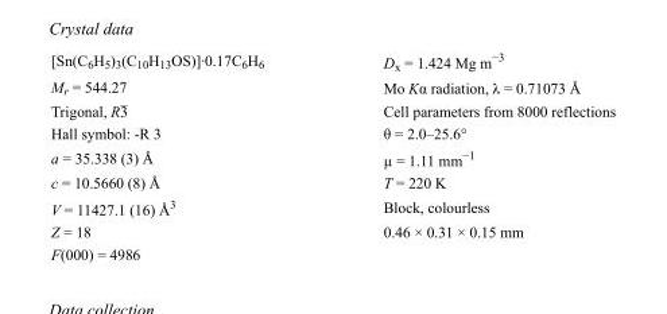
<table><tbody><tr><td>[Sn(C<sub>6</sub>H<sub>5</sub>)<sub>3</sub>(C<sub>10</sub>H<sub>13</sub>OS)]·0.17C<sub>6</sub>H<sub>6</sub></td><td>D<sub>x</sub> = 1.424 Mg m<sup>−3</sup></td></tr><tr><td>M<sub>r</sub> = 544.27</td><td>Mo Kα radiation, λ = 0.71073 Å</td></tr><tr><td>Trigonal, R3</td><td>Cell parameters from 8000 reflections</td></tr><tr><td>Hall symbol: -R 3</td><td>θ = 2.0–25.6°</td></tr><tr><td>a = 35.338 (3) Å</td><td>µ = 1.11 mm<sup>−1</sup></td></tr><tr><td>c = 10.5660 (8) Å</td><td>T = 220 K</td></tr><tr><td>V = 11427.1 (16) Å<sup>3</sup></td><td>Block, colourless</td></tr><tr><td>Z = 18</td><td>0.46 × 0.31 × 0.15 mm</td></tr><tr><td>F(000) = 4986</td><td></td></tr></tbody></table>